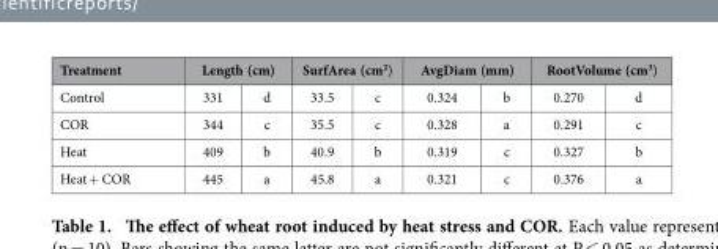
<table><thead><tr><td rowspan="2">Treatment Control</td><td colspan="2">Length (cm)</td><td colspan="2">SurfArea (cm<sup>2</sup>)</td><td colspan="2">AvgDiam (mm)</td><td colspan="2">RootVolume (cm<sup>3</sup>)</td></tr><tr><td>331</td><td>d</td><td>33.5</td><td>c</td><td>0.324</td><td>b</td><td>0.270</td><td>d</td></tr></thead><tbody><tr><td>COR</td><td>344</td><td>c</td><td>35.5</td><td>c</td><td>0.328</td><td>a</td><td>0.291</td><td>c</td></tr><tr><td>Heat</td><td>409</td><td>b</td><td>40.9</td><td>b</td><td>0.319</td><td>c</td><td>0.327</td><td>b</td></tr><tr><td>Heat + COR</td><td>445</td><td>a</td><td>45.8</td><td>a</td><td>0.321</td><td>c</td><td>0.376</td><td>a</td></tr></tbody></table>